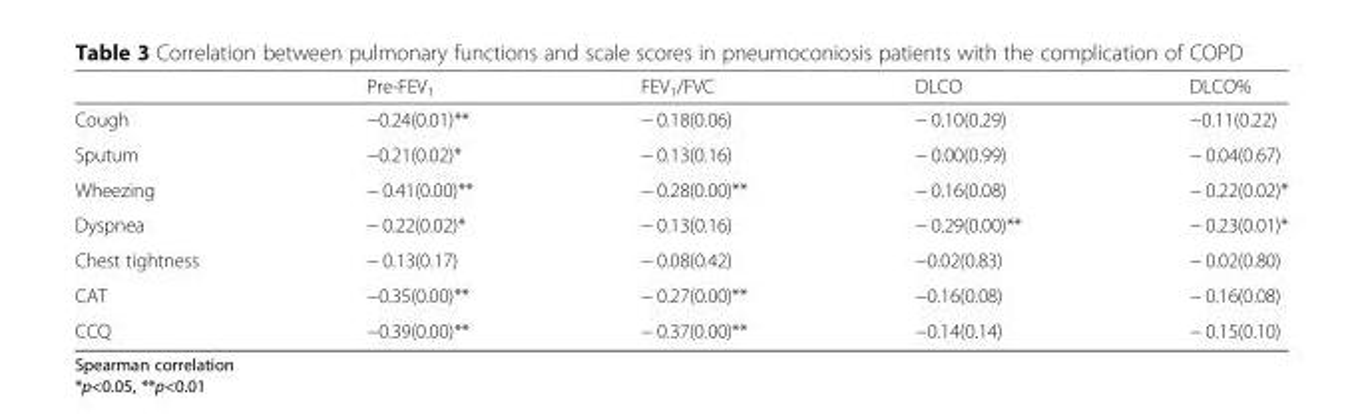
<table><thead><tr><td></td><td>Pre-FEV<sub>1</sub></td><td>FEV<sub>1</sub>/FVC</td><td>DLCO</td><td>DLCO%</td></tr></thead><tbody><tr><td>Cough</td><td>−0.24(0.01)**</td><td>− 0.18(0.06)</td><td>− 0.10(0.29)</td><td>−0.11(0.22)</td></tr><tr><td>Sputum</td><td>−0.21(0.02)*</td><td>− 0.13(0.16)</td><td>− 0.00(0.99)</td><td>− 0.04(0.67)</td></tr><tr><td>Wheezing</td><td>− 0.41(0.00)**</td><td>− 0.28(0.00)**</td><td>− 0.16(0.08)</td><td>− 0.22(0.02)*</td></tr><tr><td>Dyspnea</td><td>− 0.22(0.02)*</td><td>− 0.13(0.16)</td><td>− 0.29(0.00)**</td><td>− 0.23(0.01)*</td></tr><tr><td>Chest tightness</td><td>− 0.13(0.17)</td><td>− 0.08(0.42)</td><td>−0.02(0.83)</td><td>− 0.02(0.80)</td></tr><tr><td>CAT</td><td>−0.35(0.00)**</td><td>− 0.27(0.00)**</td><td>−0.16(0.08)</td><td>− 0.16(0.08)</td></tr><tr><td>CCQ</td><td>−0.39(0.00)**</td><td>− 0.37(0.00)**</td><td>−0.14(0.14)</td><td>− 0.15(0.10)</td></tr></tbody></table>